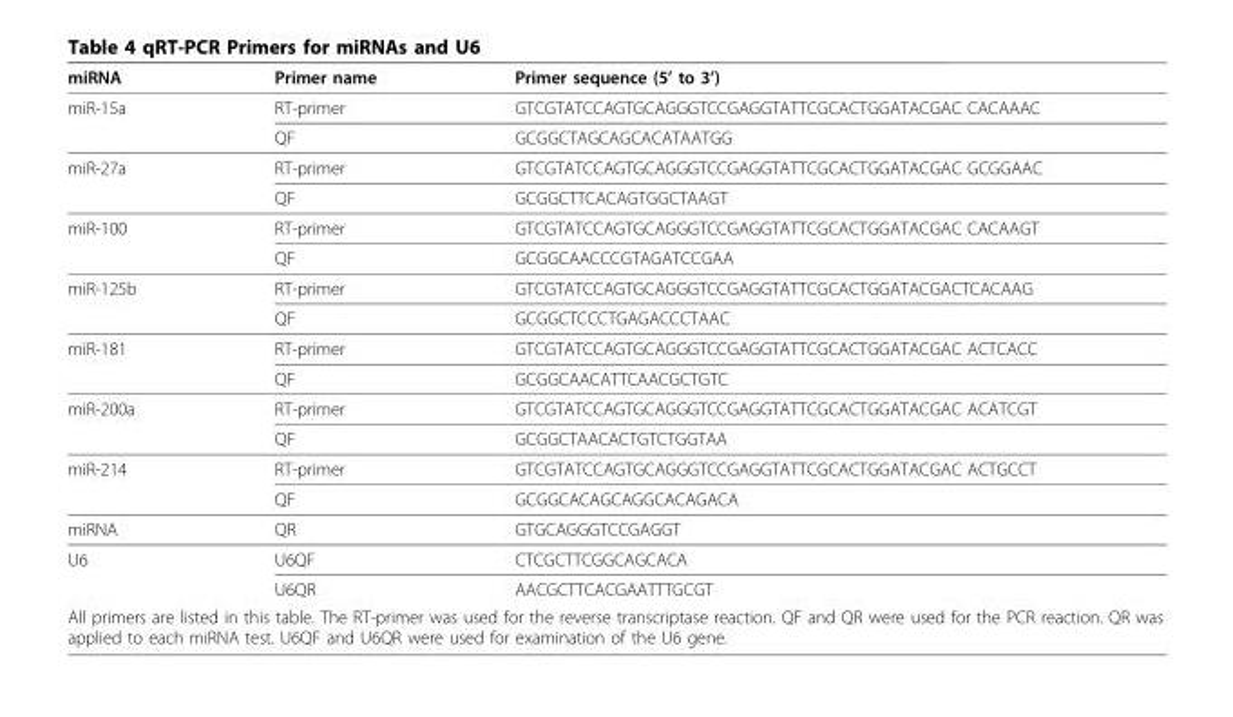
<table><thead><tr><td>miRNA</td><td>Primer name</td><td>Primer sequence (5’ to 3’)</td></tr></thead><tbody><tr><td rowspan="2">miR-15a</td><td>RT-primer</td><td>GTCGTATCCAGTGCAGGGTCCGAGGTATTCGCACTGGATACGAC CACAAAC</td></tr><tr><td>QF</td><td>GCGGCTAGCAGCACATAATGG</td></tr><tr><td rowspan="2">miR-27a</td><td>RT-primer</td><td>GTCGTATCCAGTGCAGGGTCCGAGGTATTCGCACTGGATACGAC GCGGAAC</td></tr><tr><td>QF</td><td>GCGGCTTCACAGTGGCTAAGT</td></tr><tr><td rowspan="2">miR-100</td><td>RT-primer</td><td>GTCGTATCCAGTGCAGGGTCCGAGGTATTCGCACTGGATACGAC CACAAGT</td></tr><tr><td>QF</td><td>GCGGCAACCCGTAGATCCGAA</td></tr><tr><td rowspan="2">miR-125b</td><td>RT-primer</td><td>GTCGTATCCAGTGCAGGGTCCGAGGTATTCGCACTGGATACGACTCACAAG</td></tr><tr><td>QF</td><td>GCGGCTCCCTGAGACCCTAAC</td></tr><tr><td rowspan="2">miR-181</td><td>RT-primer</td><td>GTCGTATCCAGTGCAGGGTCCGAGGTATTCGCACTGGATACGAC ACTCACC</td></tr><tr><td>QF</td><td>GCGGCAACATTCAACGCTGTC</td></tr><tr><td rowspan="2">miR-200a</td><td>RT-primer</td><td>GTCGTATCCAGTGCAGGGTCCGAGGTATTCGCACTGGATACGAC ACATCGT</td></tr><tr><td>QF</td><td>GCGGCTAACACTGTCTGGTAA</td></tr><tr><td rowspan="2">miR-214</td><td>RT-primer</td><td>GTCGTATCCAGTGCAGGGTCCGAGGTATTCGCACTGGATACGAC ACTGCCT</td></tr><tr><td>QF</td><td>GCGGCACAGCAGGCACAGACA</td></tr><tr><td>miRNA</td><td>QR</td><td>GTGCAGGGTCCGAGGT</td></tr><tr><td rowspan="2">U6</td><td>U6QF</td><td>CTCGCTTCGGCAGCACA</td></tr><tr><td>U6QR</td><td>AACGCTTCACGAATTTGCGT</td></tr><tr><td colspan="3">All primers are listed in this table. The RT-primer was used for the reverse transcriptase reaction. QF and QR were used for the PCR reaction. QR was applied to each miRNA test. U6QF and U6QR were used for examination of the U6 gene.</td></tr></tbody></table>